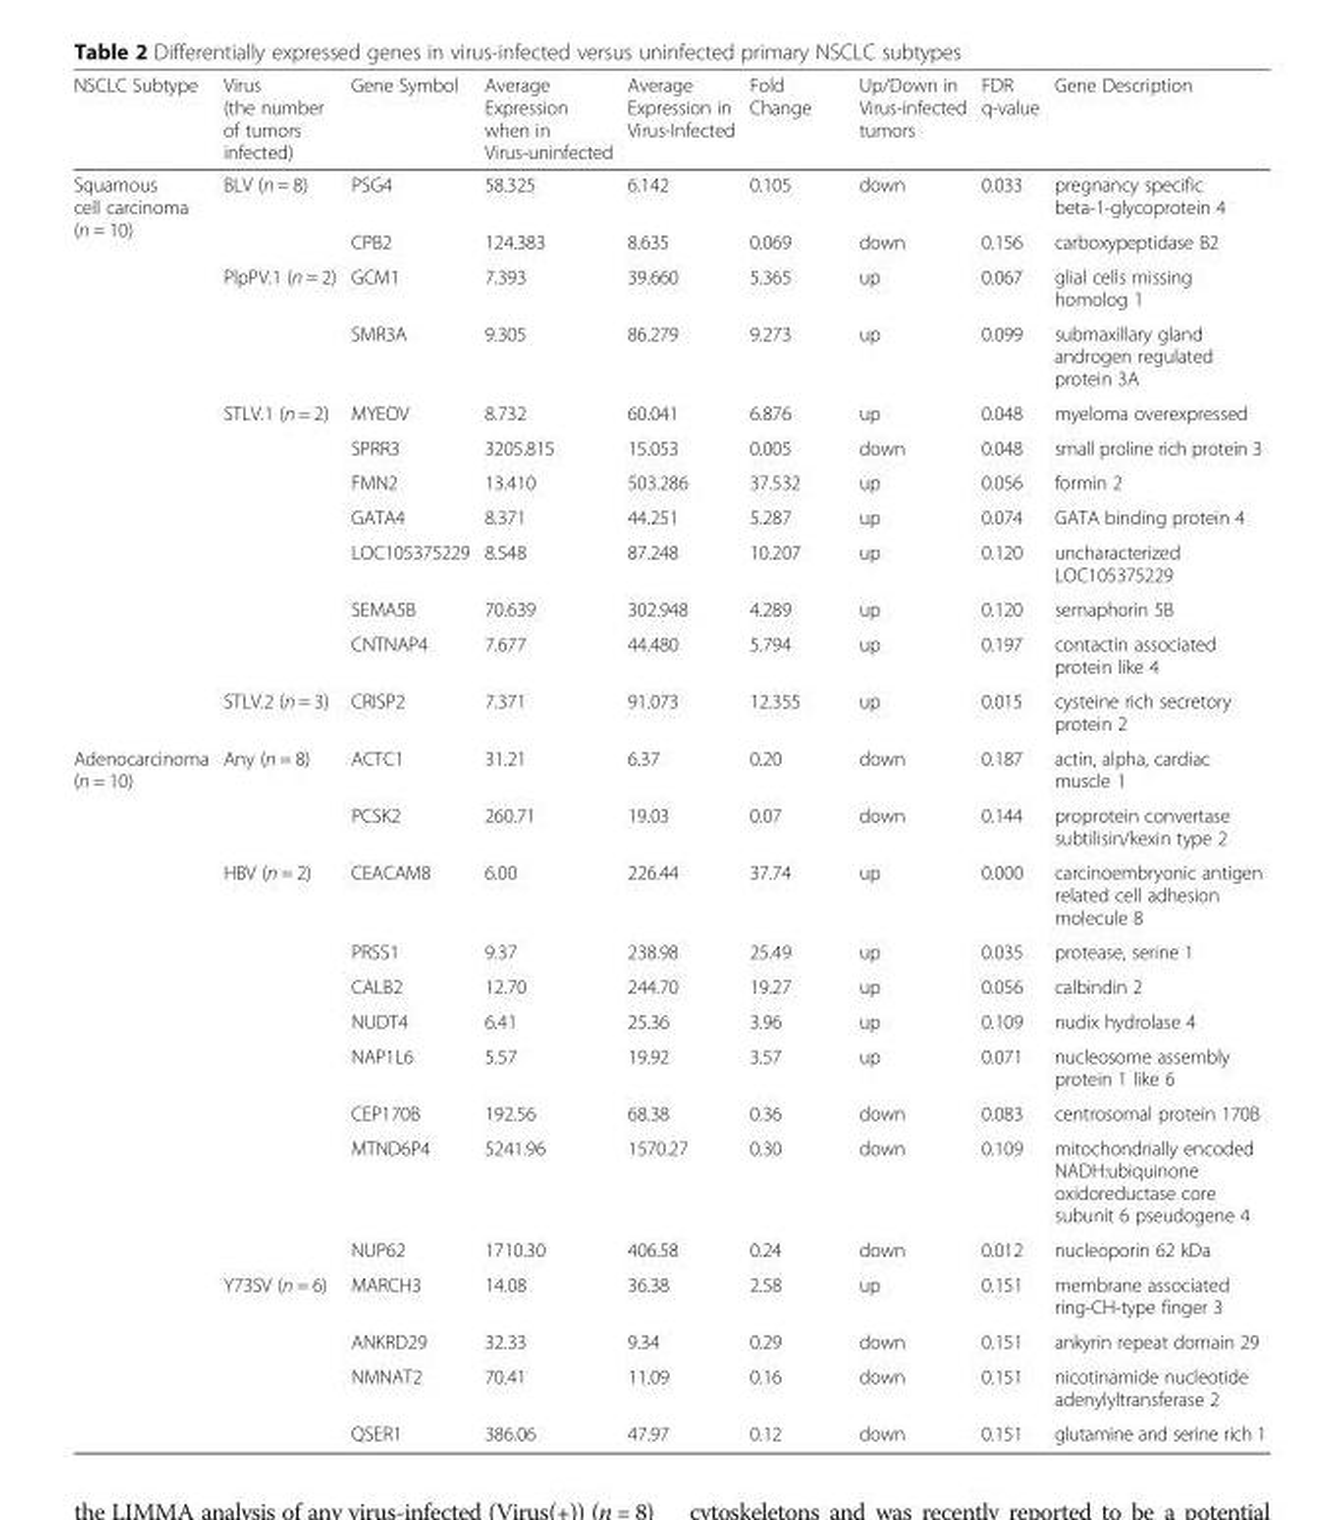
<table><thead><tr><td>NSCLC Subtype</td><td>Virus (the number of tumors infected)</td><td>Gene Symbol</td><td>Average Expression when in Virus-uninfected</td><td>Average Expression in Virus-Infected</td><td>Fold Change</td><td>Up/Down in Virus-infected tumors</td><td>FDR q-value</td><td>Gene Description</td></tr></thead><tbody><tr><td rowspan="12">Squamous cell carcinoma (n = 10)</td><td rowspan="2">BLV (n = 8)</td><td>PSG4</td><td>58.325</td><td>6.142</td><td>0.105</td><td>down</td><td>0.033</td><td>pregnancy specific beta-1-glycoprotein 4</td></tr><tr><td>CPB2</td><td>124.383</td><td>8.635</td><td>0.069</td><td>down</td><td>0.156</td><td>carboxypeptidase B2</td></tr><tr><td rowspan="2">PlpPV.1 (n = 2)</td><td>GCM1</td><td>7.393</td><td>39.660</td><td>5.365</td><td>up</td><td>0.067</td><td>glial cells missing homolog 1</td></tr><tr><td>SMR3A</td><td>9.305</td><td>86.279</td><td>9.273</td><td>up</td><td>0.099</td><td>submaxillary gland androgen regulated protein 3A</td></tr><tr><td rowspan="7">STLV.1 (n = 2)</td><td>MYEOV</td><td>8.732</td><td>60.041</td><td>6.876</td><td>up</td><td>0.048</td><td>myeloma overexpressed</td></tr><tr><td>SPRR3</td><td>3205.815</td><td>15.053</td><td>0.005</td><td>down</td><td>0.048</td><td>small proline rich protein 3</td></tr><tr><td>FMN2</td><td>13.410</td><td>503.286</td><td>37.532</td><td>up</td><td>0.056</td><td>formin 2</td></tr><tr><td>GATA4</td><td>8.371</td><td>44.251</td><td>5.287</td><td>up</td><td>0.074</td><td>GATA binding protein 4</td></tr><tr><td>LOC105375229</td><td>8.548</td><td>87.248</td><td>10.207</td><td>up</td><td>0.120</td><td>uncharacterized LOC105375229</td></tr><tr><td>SEMA5B</td><td>70.639</td><td>302.948</td><td>4.289</td><td>up</td><td>0.120</td><td>semaphorin 5B</td></tr><tr><td>CNTNAP4</td><td>7.677</td><td>44.480</td><td>5.794</td><td>up</td><td>0.197</td><td>contactin associated protein like 4</td></tr><tr><td>STLV.2 (n = 3)</td><td>CRISP2</td><td>7.371</td><td>91.073</td><td>12.355</td><td>up</td><td>0.015</td><td>cysteine rich secretory protein 2</td></tr><tr><td rowspan="14">Adenocarcinoma (n = 10)</td><td rowspan="2">Any (n = 8)</td><td>ACTC1</td><td>31.21</td><td>6.37</td><td>0.20</td><td>down</td><td>0.187</td><td>actin, alpha, cardiac muscle 1</td></tr><tr><td>PCSK2</td><td>260.71</td><td>19.03</td><td>0.07</td><td>down</td><td>0.144</td><td>proprotein convertase subtilisin/kexin type 2</td></tr><tr><td rowspan="8">HBV (n = 2)</td><td>CEACAM8</td><td>6.00</td><td>226.44</td><td>37.74</td><td>up</td><td>0.000</td><td>carcinoembryonic antigen related cell adhesion molecule 8</td></tr><tr><td>PRSS1</td><td>9.37</td><td>238.98</td><td>25.49</td><td>up</td><td>0.035</td><td>protease, serine 1</td></tr><tr><td>CALB2</td><td>12.70</td><td>244.70</td><td>19.27</td><td>up</td><td>0.056</td><td>calbindin 2</td></tr><tr><td>NUDT4</td><td>6.41</td><td>25.36</td><td>3.96</td><td>up</td><td>0.109</td><td>nudix hydrolase 4</td></tr><tr><td>NAP1L6</td><td>5.57</td><td>19.92</td><td>3.57</td><td>up</td><td>0.071</td><td>nucleosome assembly protein 1 like 6</td></tr><tr><td>CEP170B</td><td>192.56</td><td>68.38</td><td>0.36</td><td>down</td><td>0.083</td><td>centrosomal protein 170B</td></tr><tr><td>MTND6P4</td><td>5241.96</td><td>1570.27</td><td>0.30</td><td>down</td><td>0.109</td><td>mitochondrially encoded NADH:ubiquinone oxidoreductase core subunit 6 pseudogene 4</td></tr><tr><td>NUP62</td><td>1710.30</td><td>406.58</td><td>0.24</td><td>down</td><td>0.012</td><td>nucleoporin 62 kDa</td></tr><tr><td rowspan="4">Y73SV (n = 6)</td><td>MARCH3</td><td>14.08</td><td>36.38</td><td>2.58</td><td>up</td><td>0.151</td><td>membrane associated ring-CH-type finger 3</td></tr><tr><td>ANKRD29</td><td>32.33</td><td>9.34</td><td>0.29</td><td>down</td><td>0.151</td><td>ankyrin repeat domain 29</td></tr><tr><td>NMNAT2</td><td>70.41</td><td>11.09</td><td>0.16</td><td>down</td><td>0.151</td><td>nicotinamide nucleotide adenylyltransferase 2</td></tr><tr><td>QSER1</td><td>386.06</td><td>47.97</td><td>0.12</td><td>down</td><td>0.151</td><td>glutamine and serine rich 1</td></tr></tbody></table>